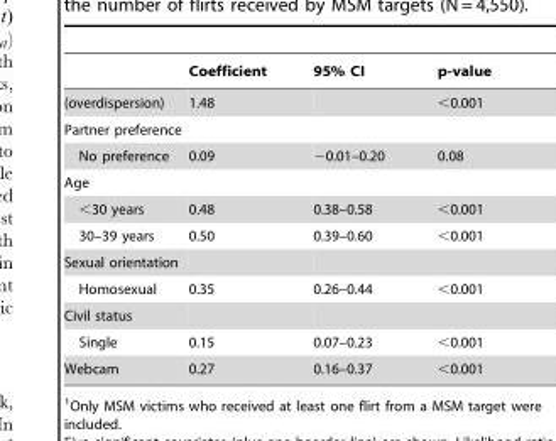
<table><thead><tr><td></td><td>Coefficient</td><td>95% CI</td><td>p-value</td></tr></thead><tbody><tr><td>(overdispersion)</td><td>1.48</td><td></td><td>&lt;0.001</td></tr><tr><td colspan="4">Partner preference</td></tr><tr><td>No preference</td><td>0.09</td><td>−0.01–0.20</td><td>0.08</td></tr><tr><td colspan="4">Age</td></tr><tr><td>&lt;30 years</td><td>0.48</td><td>0.38–0.58</td><td>&lt;0.001</td></tr><tr><td>30–39 years</td><td>0.50</td><td>0.39–0.60</td><td>&lt;0.001</td></tr><tr><td colspan="4">Sexual orientation</td></tr><tr><td>Homosexual</td><td>0.35</td><td>0.26–0.44</td><td>&lt;0.001</td></tr><tr><td colspan="4">Civil status</td></tr><tr><td>Single</td><td>0.15</td><td>0.07–0.23</td><td>&lt;0.001</td></tr><tr><td>Webcam</td><td>0.27</td><td>0.16–0.37</td><td>&lt;0.001</td></tr></tbody></table>